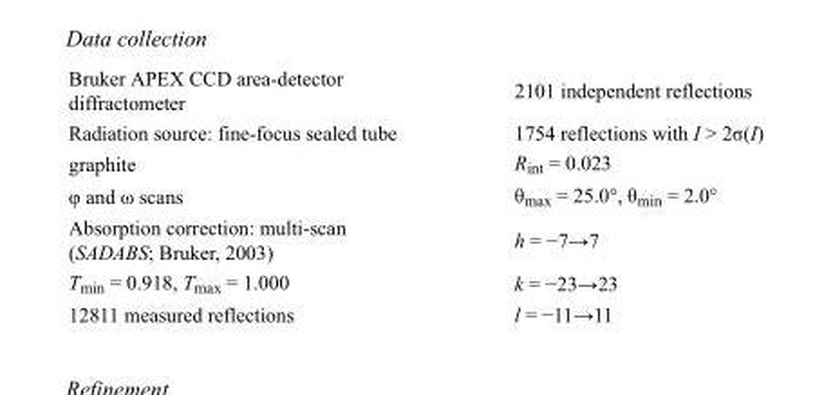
<table><tbody><tr><td>Bruker APEX CCD area-detector diffractometer</td><td>2101 independent reflections</td></tr><tr><td>Radiation source: fine-focus sealed tube</td><td>1754 reflections with I &gt; 2σ(I)</td></tr><tr><td>graphite</td><td>R<sub>int</sub> = 0.023</td></tr><tr><td>φ and ω scans</td><td>θ<sub>max</sub> = 25.0°, θ<sub>min</sub> = 2.0°</td></tr><tr><td>Absorption correction: multi-scan (SADABS; Bruker, 2003)</td><td>h = −7→7</td></tr><tr><td>T<sub>min</sub> = 0.918, T<sub>max</sub> = 1.000</td><td>k = −23→23</td></tr><tr><td>12811 measured reflections</td><td>l = −11→11</td></tr></tbody></table>